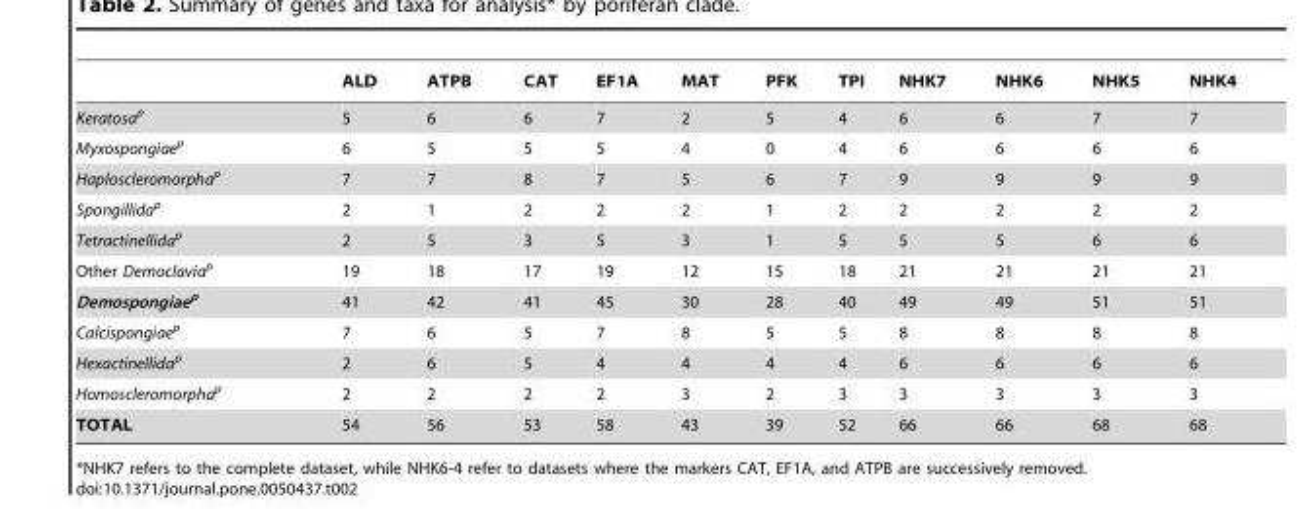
<table><thead><tr><td></td><td>ALD</td><td>ATPB</td><td>CAT</td><td>EF1A</td><td>MAT</td><td>PFK</td><td>TPI</td><td>NHK7</td><td>NHK6</td><td>NHK5</td><td>NHK4</td></tr></thead><tbody><tr><td>Keratosa<sup>p</sup></td><td>5</td><td>6</td><td>6</td><td>7</td><td>2</td><td>5</td><td>4</td><td>6</td><td>6</td><td>7</td><td>7</td></tr><tr><td>Myxospongiae<sup>p</sup></td><td>6</td><td>5</td><td>5</td><td>5</td><td>4</td><td>0</td><td>4</td><td>6</td><td>6</td><td>6</td><td>6</td></tr><tr><td>Haploscleromorpha<sup>p</sup></td><td>7</td><td>7</td><td>8</td><td>7</td><td>5</td><td>6</td><td>7</td><td>9</td><td>9</td><td>9</td><td>9</td></tr><tr><td>Spongillida<sup>p</sup></td><td>2</td><td>1</td><td>2</td><td>2</td><td>2</td><td>1</td><td>2</td><td>2</td><td>2</td><td>2</td><td>2</td></tr><tr><td>Tetractinellida<sup>p</sup></td><td>2</td><td>5</td><td>3</td><td>5</td><td>3</td><td>1</td><td>5</td><td>5</td><td>5</td><td>6</td><td>6</td></tr><tr><td>Other Democlavia<sup>p</sup></td><td>19</td><td>18</td><td>17</td><td>19</td><td>12</td><td>15</td><td>18</td><td>21</td><td>21</td><td>21</td><td>21</td></tr><tr><td>Demospongiae<sup>p</sup></td><td>41</td><td>42</td><td>41</td><td>45</td><td>30</td><td>28</td><td>40</td><td>49</td><td>49</td><td>51</td><td>51</td></tr><tr><td>Calcispongiae<sup>p</sup></td><td>7</td><td>6</td><td>5</td><td>7</td><td>8</td><td>5</td><td>5</td><td>8</td><td>8</td><td>8</td><td>8</td></tr><tr><td>Hexactinellida<sup>p</sup></td><td>2</td><td>6</td><td>5</td><td>4</td><td>4</td><td>4</td><td>4</td><td>6</td><td>6</td><td>6</td><td>6</td></tr><tr><td>Homoscleromorpha<sup>p</sup></td><td>2</td><td>2</td><td>2</td><td>2</td><td>3</td><td>2</td><td>3</td><td>3</td><td>3</td><td>3</td><td>3</td></tr><tr><td>TOTAL</td><td>54</td><td>56</td><td>53</td><td>58</td><td>43</td><td>39</td><td>52</td><td>66</td><td>66</td><td>68</td><td>68</td></tr></tbody></table>